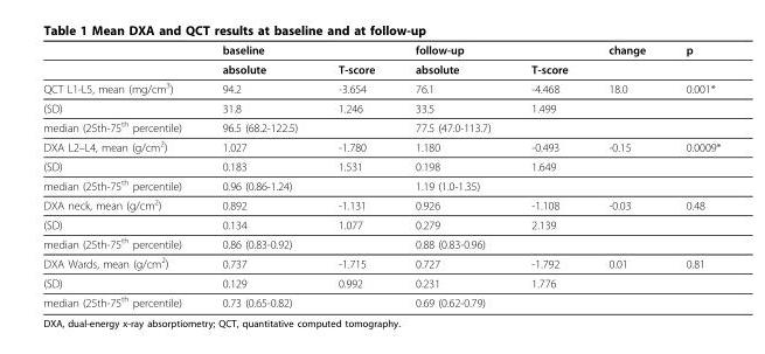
<table><thead><tr><td></td><td>baseline</td><td></td><td>follow-up</td><td></td><td>change</td><td>p</td></tr></thead><tbody><tr><td></td><td>absolute</td><td>T-score</td><td>absolute</td><td>T-score</td><td></td><td></td></tr><tr><td>QCT L1-L5, mean (mg/cm<sup>3</sup>)</td><td>94.2</td><td>-3.654</td><td>76.1</td><td>-4.468</td><td>18.0</td><td>0.001*</td></tr><tr><td>(SD)</td><td>31.8</td><td>1.246</td><td>33.5</td><td>1.499</td><td></td><td></td></tr><tr><td>median (25th-75<sup>th</sup> percentile)</td><td>96.5 (68.2-122.5)</td><td></td><td>77.5 (47.0-113.7)</td><td></td><td></td><td></td></tr><tr><td>DXA L2–L4, mean (g/cm2)</td><td>1.027</td><td>-1.780</td><td>1.180</td><td>-0.493</td><td>-0.15</td><td>0.0009*</td></tr><tr><td>(SD)</td><td>0.183</td><td>1.531</td><td>0.198</td><td>1.649</td><td></td><td></td></tr><tr><td>median (25th-75<sup>th</sup> percentile)</td><td>0.96 (0.86-1.24)</td><td></td><td>1.19 (1.0-1.35)</td><td></td><td></td><td></td></tr><tr><td>DXA neck, mean (g/cm<sup>2</sup>)</td><td>0.892</td><td>-1.131</td><td>0.926</td><td>-1.108</td><td>-0.03</td><td>0.48</td></tr><tr><td>(SD)</td><td>0.134</td><td>1.077</td><td>0.279</td><td>2.139</td><td></td><td></td></tr><tr><td>median (25th-75<sup>th</sup> percentile)</td><td>0.86 (0.83-0.92)</td><td></td><td>0.88 (0.83-0.96)</td><td></td><td></td><td></td></tr><tr><td>DXA Wards, mean (g/cm<sup>2</sup>)</td><td>0.737</td><td>-1.715</td><td>0.727</td><td>-1.792</td><td>0.01</td><td>0.81</td></tr><tr><td>(SD)</td><td>0.129</td><td>0.992</td><td>0.231</td><td>1.776</td><td></td><td></td></tr><tr><td>median (25th-75<sup>th</sup> percentile)</td><td>0.73 (0.65-0.82)</td><td></td><td>0.69 (0.62-0.79)</td><td></td><td></td><td></td></tr></tbody></table>